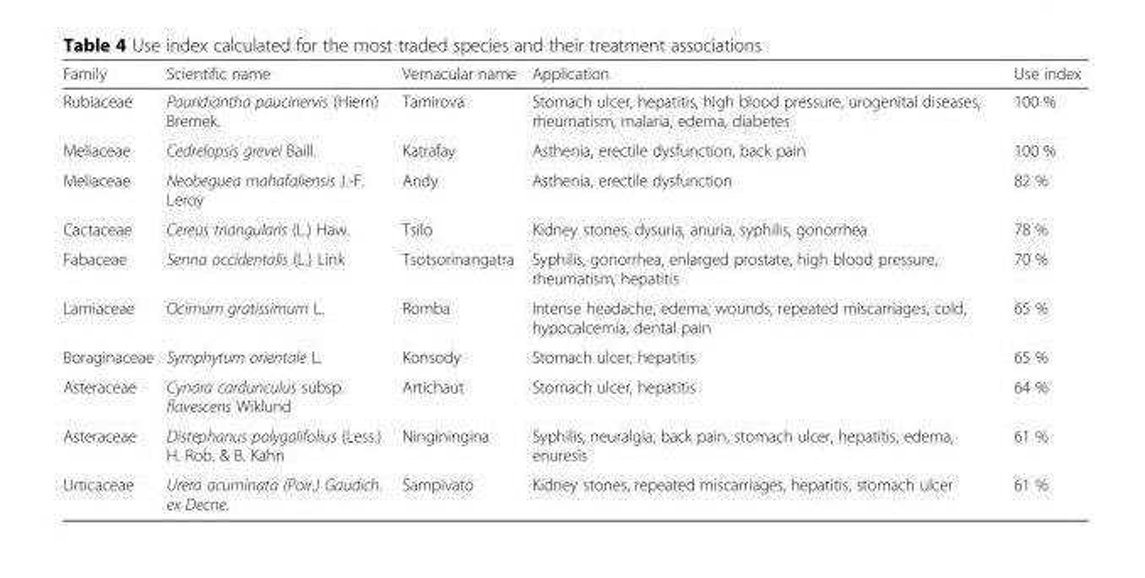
<table><thead><tr><td>Family</td><td>Scientific name</td><td>Vernacular name</td><td>Application</td><td>Use index</td></tr></thead><tbody><tr><td>Rubiaceae</td><td>Pauridiantha paucinervis (Hiern) Bremek.</td><td>Tamirova</td><td>Stomach ulcer, hepatitis, high blood pressure, urogenital diseases, rheumatism, malaria, edema, diabetes</td><td>100 %</td></tr><tr><td>Meliaceae</td><td>Cedrelopsis grevei Baill.</td><td>Katrafay</td><td>Asthenia, erectile dysfunction, back pain</td><td>100 %</td></tr><tr><td>Meliaceae</td><td>Neobeguea mahafaliensis J.-F. Leroy</td><td>Andy</td><td>Asthenia, erectile dysfunction</td><td>82 %</td></tr><tr><td>Cactaceae</td><td>Cereus triangularis (L.) Haw.</td><td>Tsilo</td><td>Kidney stones, dysuria, anuria, syphilis, gonorrhea</td><td>78 %</td></tr><tr><td>Fabaceae</td><td>Senna occidentalis (L.) Link</td><td>Tsotsorinangatra</td><td>Syphilis, gonorrhea, enlarged prostate, high blood pressure, rheumatism, hepatitis</td><td>70 %</td></tr><tr><td>Lamiaceae</td><td>Ocimum gratissimum L.</td><td>Romba</td><td>Intense headache, edema, wounds, repeated miscarriages, cold, hypocalcemia, dental pain</td><td>65 %</td></tr><tr><td>Boraginaceae</td><td>Symphytum orientale L.</td><td>Konsody</td><td>Stomach ulcer, hepatitis</td><td>65 %</td></tr><tr><td>Asteraceae</td><td>Cynara cardunculus subsp. flavescens Wiklund</td><td>Artichaut</td><td>Stomach ulcer, hepatitis</td><td>64 %</td></tr><tr><td>Asteraceae</td><td>Distephanus polygalifolius (Less.) H. Rob. &amp; B. Kahn</td><td>Ninginingina</td><td>Syphilis, neuralgia, back pain, stomach ulcer, hepatitis, edema, enuresis</td><td>61 %</td></tr><tr><td>Urticaceae</td><td>Urera acuminata (Poir.) Gaudich. ex Decne.</td><td>Sampivato</td><td>Kidney stones, repeated miscarriages, hepatitis, stomach ulcer</td><td>61 %</td></tr></tbody></table>